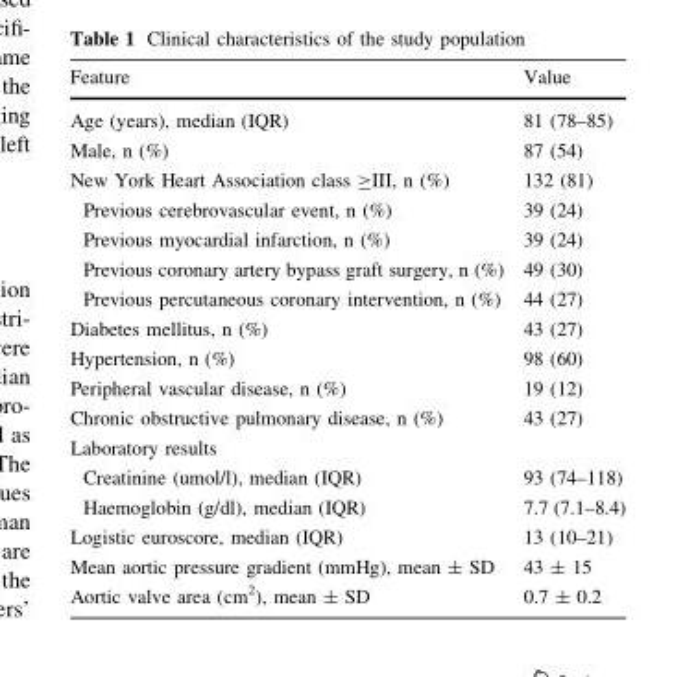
<table><thead><tr><td>Feature</td><td>Value</td></tr></thead><tbody><tr><td>Age (years), median (IQR)</td><td>81 (78–85)</td></tr><tr><td>Male, n (%)</td><td>87 (54)</td></tr><tr><td>New York Heart Association class ≥III, n (%)</td><td>132 (81)</td></tr><tr><td>Previous cerebrovascular event, n (%)</td><td>39 (24)</td></tr><tr><td>Previous myocardial infarction, n (%)</td><td>39 (24)</td></tr><tr><td>Previous coronary artery bypass graft surgery, n (%)</td><td>49 (30)</td></tr><tr><td>Previous percutaneous coronary intervention, n (%)</td><td>44 (27)</td></tr><tr><td>Diabetes mellitus, n (%)</td><td>43 (27)</td></tr><tr><td>Hypertension, n (%)</td><td>98 (60)</td></tr><tr><td>Peripheral vascular disease, n (%)</td><td>19 (12)</td></tr><tr><td>Chronic obstructive pulmonary disease, n (%)</td><td>43 (27)</td></tr><tr><td colspan="2">Laboratory results</td></tr><tr><td>Creatinine (umol/l), median (IQR)</td><td>93 (74–118)</td></tr><tr><td>Haemoglobin (g/dl), median (IQR)</td><td>7.7 (7.1–8.4)</td></tr><tr><td>Logistic euroscore, median (IQR)</td><td>13 (10–21)</td></tr><tr><td>Mean aortic pressure gradient (mmHg), mean ± SD</td><td>43 ± 15</td></tr><tr><td>Aortic valve area (cm<sup>2</sup>), mean ± SD</td><td>0.7 ± 0.2</td></tr></tbody></table>